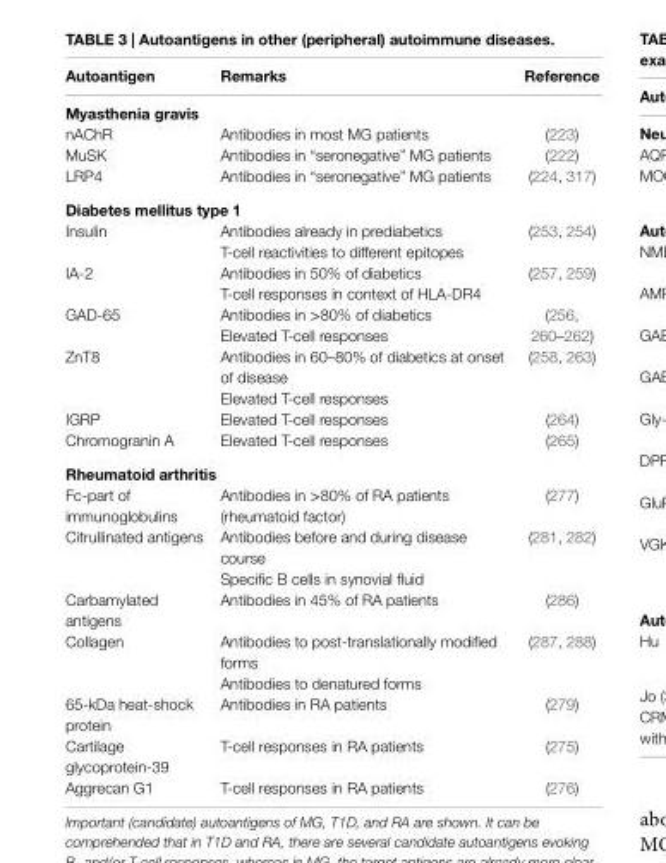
<table><thead><tr><td>Autoantigen</td><td>Remarks</td><td>Reference</td></tr></thead><tbody><tr><td colspan="3">Myasthenia gravis</td></tr><tr><td>nAChR</td><td>Antibodies in most MG patients</td><td>(223)</td></tr><tr><td>MuSK</td><td>Antibodies in “seronegative” MG patients</td><td>(222)</td></tr><tr><td>LRP4</td><td>Antibodies in “seronegative” MG patients</td><td>(224, 317)</td></tr><tr><td colspan="3">Diabetes mellitus type 1</td></tr><tr><td>Insulin</td><td>Antibodies already in prediabetics T-cell reactivities to different epitopes</td><td>(253, 254)</td></tr><tr><td>IA-2</td><td>Antibodies in 50% of diabetics T-cell responses in context of HLA-DR4</td><td>(257, 259)</td></tr><tr><td>GAD-65</td><td>Antibodies in &gt;80% of diabetics Elevated T-cell responses</td><td>(256, 260–262)</td></tr><tr><td>ZnT8</td><td>Antibodies in 60–80% of diabetics at onset of disease Elevated T-cell responses</td><td>(258, 263)</td></tr><tr><td>IGRP</td><td>Elevated T-cell responses</td><td>(264)</td></tr><tr><td>Chromogranin A</td><td>Elevated T-cell responses</td><td>(265)</td></tr><tr><td colspan="3">Rheumatoid arthritis</td></tr><tr><td>Fc-part of immunoglobulins</td><td>Antibodies in &gt;80% of RA patients (rheumatoid factor)</td><td>(277)</td></tr><tr><td>Citrullinated antigens</td><td>Antibodies before and during disease course Specific B cells in synovial fluid</td><td>(281, 282)</td></tr><tr><td>Carbamylated antigens</td><td>Antibodies in 45% of RA patients</td><td>(286)</td></tr><tr><td>Collagen</td><td>Antibodies to post-translationally modified forms Antibodies to denatured forms</td><td>(287, 288)</td></tr><tr><td>65-kDa heat-shock protein</td><td>Antibodies in RA patients</td><td>(279)</td></tr><tr><td>Cartilage glycoprotein-39</td><td>T-cell responses in RA patients</td><td>(275)</td></tr><tr><td>Aggrecan G1</td><td>T-cell responses in RA patients</td><td>(276)</td></tr></tbody></table>